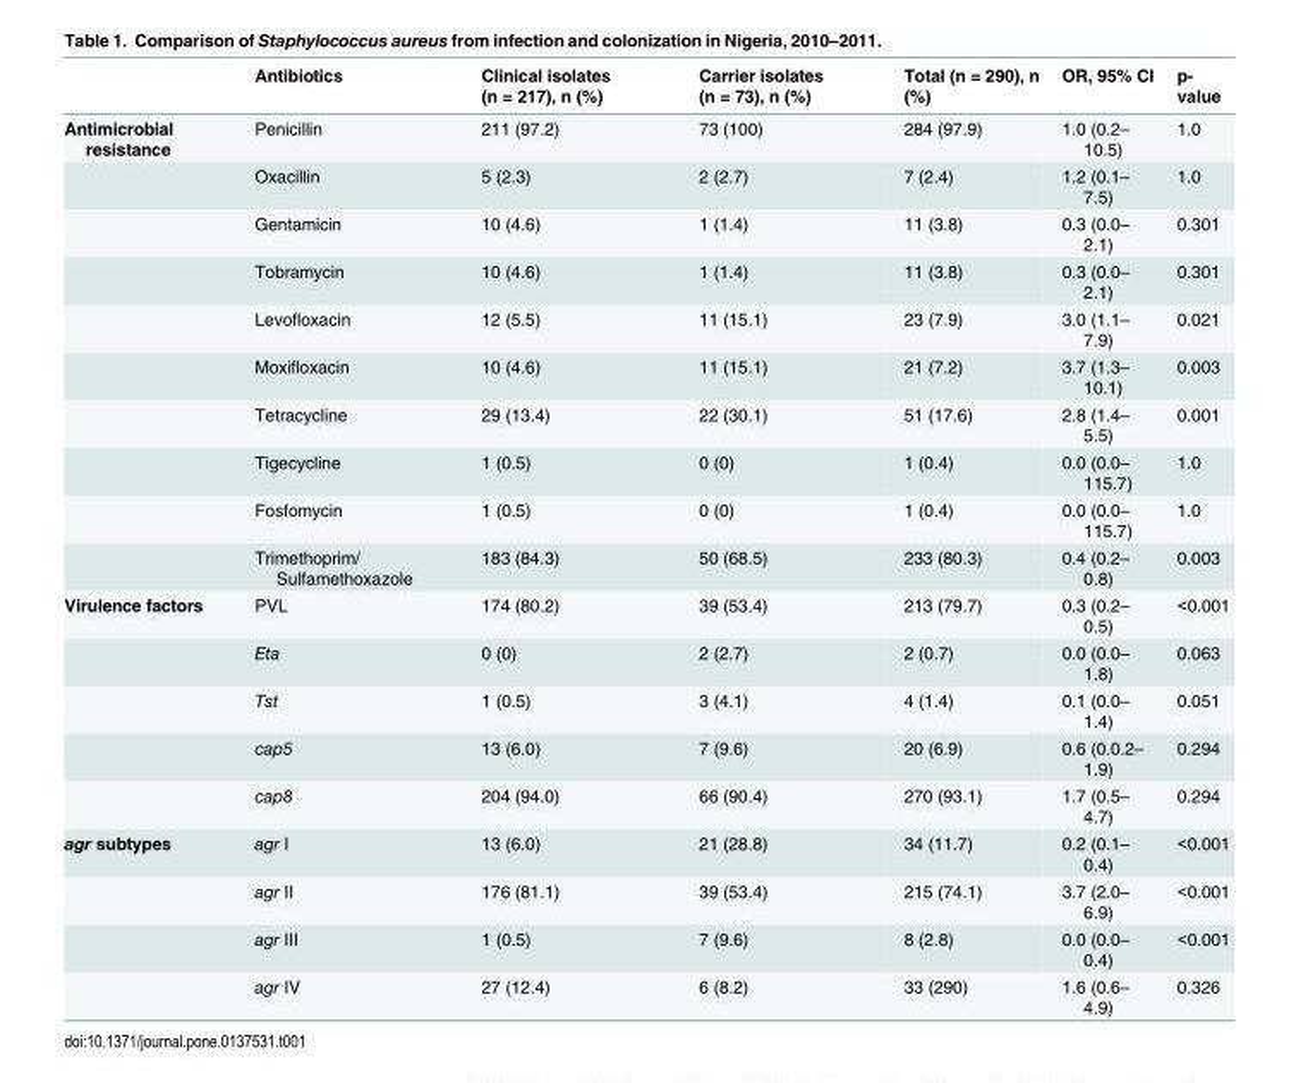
<table><thead><tr><td></td><td>Antibiotics</td><td>Clinical isolates (n = 217), n (%)</td><td>Carrier isolates (n = 73), n (%)</td><td>Total (n = 290), n (%)</td><td>OR, 95% CI</td><td>p- value</td></tr></thead><tbody><tr><td rowspan="10">Antimicrobial resistance</td><td>Penicillin</td><td>211 (97.2)</td><td>73 (100)</td><td>284 (97.9)</td><td>1.0 (0.2– 10.5)</td><td>1.0</td></tr><tr><td>Oxacillin</td><td>5 (2.3)</td><td>2 (2.7)</td><td>7 (2.4)</td><td>1.2 (0.1– 7.5)</td><td>1.0</td></tr><tr><td>Gentamicin</td><td>10 (4.6)</td><td>1 (1.4)</td><td>11 (3.8)</td><td>0.3 (0.0– 2.1)</td><td>0.301</td></tr><tr><td>Tobramycin</td><td>10 (4.6)</td><td>1 (1.4)</td><td>11 (3.8)</td><td>0.3 (0.0– 2.1)</td><td>0.301</td></tr><tr><td>Levofloxacin</td><td>12 (5.5)</td><td>11 (15.1)</td><td>23 (7.9)</td><td>3.0 (1.1– 7.9)</td><td>0.021</td></tr><tr><td>Moxifloxacin</td><td>10 (4.6)</td><td>11 (15.1)</td><td>21 (7.2)</td><td>3.7 (1.3– 10.1)</td><td>0.003</td></tr><tr><td>Tetracycline</td><td>29 (13.4)</td><td>22 (30.1)</td><td>51 (17.6)</td><td>2.8 (1.4– 5.5)</td><td>0.001</td></tr><tr><td>Tigecycline</td><td>1 (0.5)</td><td>0 (0)</td><td>1 (0.4)</td><td>0.0 (0.0– 115.7)</td><td>1.0</td></tr><tr><td>Fosfomycin</td><td>1 (0.5)</td><td>0 (0)</td><td>1 (0.4)</td><td>0.0 (0.0– 115.7)</td><td>1.0</td></tr><tr><td>Trimethoprim/ Sulfamethoxazole</td><td>183 (84.3)</td><td>50 (68.5)</td><td>233 (80.3)</td><td>0.4 (0.2– 0.8)</td><td>0.003</td></tr><tr><td rowspan="5">Virulence factors</td><td>PVL</td><td>174 (80.2)</td><td>39 (53.4)</td><td>213 (79.7)</td><td>0.3 (0.2– 0.5)</td><td>&lt;0.001</td></tr><tr><td>Eta</td><td>0 (0)</td><td>2 (2.7)</td><td>2 (0.7)</td><td>0.0 (0.0– 1.8)</td><td>0.063</td></tr><tr><td>Tst</td><td>1 (0.5)</td><td>3 (4.1)</td><td>4 (1.4)</td><td>0.1 (0.0– 1.4)</td><td>0.051</td></tr><tr><td>cap5</td><td>13 (6.0)</td><td>7 (9.6)</td><td>20 (6.9)</td><td>0.6 (0.0.2– 1.9)</td><td>0.294</td></tr><tr><td>cap8</td><td>204 (94.0)</td><td>66 (90.4)</td><td>270 (93.1)</td><td>1.7 (0.5– 4.7)</td><td>0.294</td></tr><tr><td rowspan="4">agr subtypes</td><td>agr I</td><td>13 (6.0)</td><td>21 (28.8)</td><td>34 (11.7)</td><td>0.2 (0.1– 0.4)</td><td>&lt;0.001</td></tr><tr><td>agr II</td><td>176 (81.1)</td><td>39 (53.4)</td><td>215 (74.1)</td><td>3.7 (2.0– 6.9)</td><td>&lt;0.001</td></tr><tr><td>agr III</td><td>1 (0.5)</td><td>7 (9.6)</td><td>8 (2.8)</td><td>0.0 (0.0– 0.4)</td><td>&lt;0.001</td></tr><tr><td>agr IV</td><td>27 (12.4)</td><td>6 (8.2)</td><td>33 (290)</td><td>1.6 (0.6– 4.9)</td><td>0.326</td></tr></tbody></table>